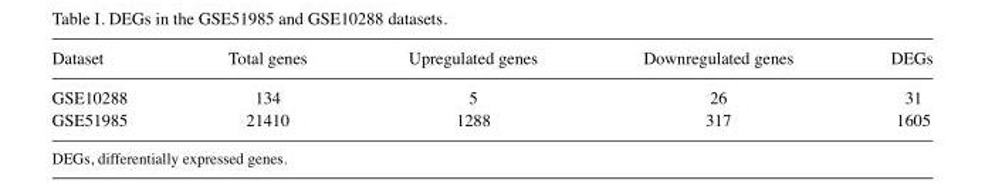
<table><thead><tr><td>Dataset</td><td>Total genes</td><td>Upregulated genes</td><td>Downregulated genes</td><td>DEGs</td></tr></thead><tbody><tr><td>GSE10288</td><td>134</td><td>5</td><td>26</td><td>31</td></tr><tr><td>GSE51985</td><td>21410</td><td>1288</td><td>317</td><td>1605</td></tr></tbody></table>